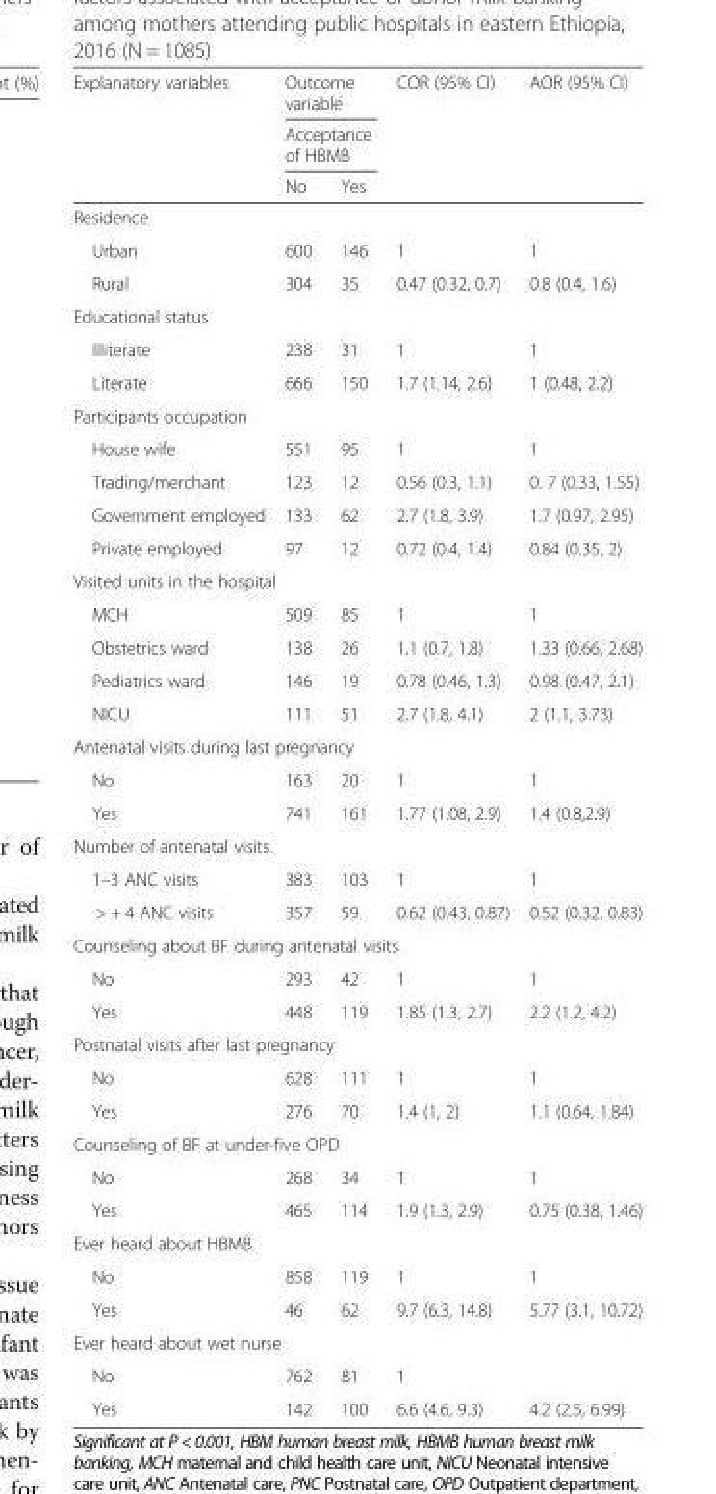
<table><thead><tr><td rowspan="3">Explanatory variables</td><td rowspan="2" colspan="2">Outcome variable Acceptance of HBMB</td><td rowspan="3">COR (95% CI)</td><td rowspan="3">AOR (95% CI)</td></tr><tr></tr><tr><td>No</td><td>Yes</td></tr></thead><tbody><tr><td colspan="5">Residence</td></tr><tr><td>Urban</td><td>600</td><td>146</td><td>1</td><td>1</td></tr><tr><td>Rural</td><td>304</td><td>35</td><td>0.47 (0.32, 0.7)</td><td>0.8 (0.4, 1.6)</td></tr><tr><td colspan="5">Educational status</td></tr><tr><td>Illiterate</td><td>238</td><td>31</td><td>1</td><td>1</td></tr><tr><td>Literate</td><td>666</td><td>150</td><td>1.7 (1.14, 2.6)</td><td>1 (0.48, 2.2)</td></tr><tr><td colspan="5">Participants occupation</td></tr><tr><td>House wife</td><td>551</td><td>95</td><td>1</td><td>1</td></tr><tr><td>Trading/merchant</td><td>123</td><td>12</td><td>0.56 (0.3, 1.1)</td><td>0. 7 (0.33, 1.55)</td></tr><tr><td>Government employed</td><td>133</td><td>62</td><td>2.7 (1.8, 3.9)</td><td>1.7 (0.97, 2.95)</td></tr><tr><td>Private employed</td><td>97</td><td>12</td><td>0.72 (0.4, 1.4)</td><td>0.84 (0.35, 2)</td></tr><tr><td colspan="5">Visited units in the hospital</td></tr><tr><td>MCH</td><td>509</td><td>85</td><td>1</td><td>1</td></tr><tr><td>Obstetrics ward</td><td>138</td><td>26</td><td>1.1 (0.7, 1.8)</td><td>1.33 (0.66, 2.68)</td></tr><tr><td>Pediatrics ward</td><td>146</td><td>19</td><td>0.78 (0.46, 1.3)</td><td>0.98 (0.47, 2.1)</td></tr><tr><td>NICU</td><td>111</td><td>51</td><td>2.7 (1.8, 4.1)</td><td>2 (1.1, 3.73)</td></tr><tr><td colspan="5">Antenatal visits during last pregnancy</td></tr><tr><td>No</td><td>163</td><td>20</td><td>1</td><td>1</td></tr><tr><td>Yes</td><td>741</td><td>161</td><td>1.77 (1.08, 2.9)</td><td>1.4 (0.8,2.9)</td></tr><tr><td colspan="5">Number of antenatal visits</td></tr><tr><td>1–3 ANC visits</td><td>383</td><td>103</td><td>1</td><td>1</td></tr><tr><td>&gt; + 4 ANC visits</td><td>357</td><td>59</td><td>0.62 (0.43, 0.87)</td><td>0.52 (0.32, 0.83)</td></tr><tr><td colspan="5">Counseling about BF during antenatal visits</td></tr><tr><td>No</td><td>293</td><td>42</td><td>1</td><td>1</td></tr><tr><td>Yes</td><td>448</td><td>119</td><td>1.85 (1.3, 2.7)</td><td>2.2 (1.2, 4.2)</td></tr><tr><td colspan="5">Postnatal visits after last pregnancy</td></tr><tr><td>No</td><td>628</td><td>111</td><td>1</td><td>1</td></tr><tr><td>Yes</td><td>276</td><td>70</td><td>1.4 (1, 2)</td><td>1.1 (0.64, 1.84)</td></tr><tr><td colspan="5">Counseling of BF at under-five OPD</td></tr><tr><td>No</td><td>268</td><td>34</td><td>1</td><td>1</td></tr><tr><td>Yes</td><td>465</td><td>114</td><td>1.9 (1.3, 2.9)</td><td>0.75 (0.38, 1.46)</td></tr><tr><td colspan="5">Ever heard about HBMB</td></tr><tr><td>No</td><td>858</td><td>119</td><td>1</td><td>1</td></tr><tr><td>Yes</td><td>46</td><td>62</td><td>9.7 (6.3, 14.8)</td><td>5.77 (3.1, 10.72)</td></tr><tr><td colspan="5">Ever heard about wet nurse</td></tr><tr><td>No</td><td>762</td><td>81</td><td>1</td><td></td></tr><tr><td>Yes</td><td>142</td><td>100</td><td>6.6 (4.6, 9.3)</td><td>4.2 (2.5, 6.99)</td></tr></tbody></table>